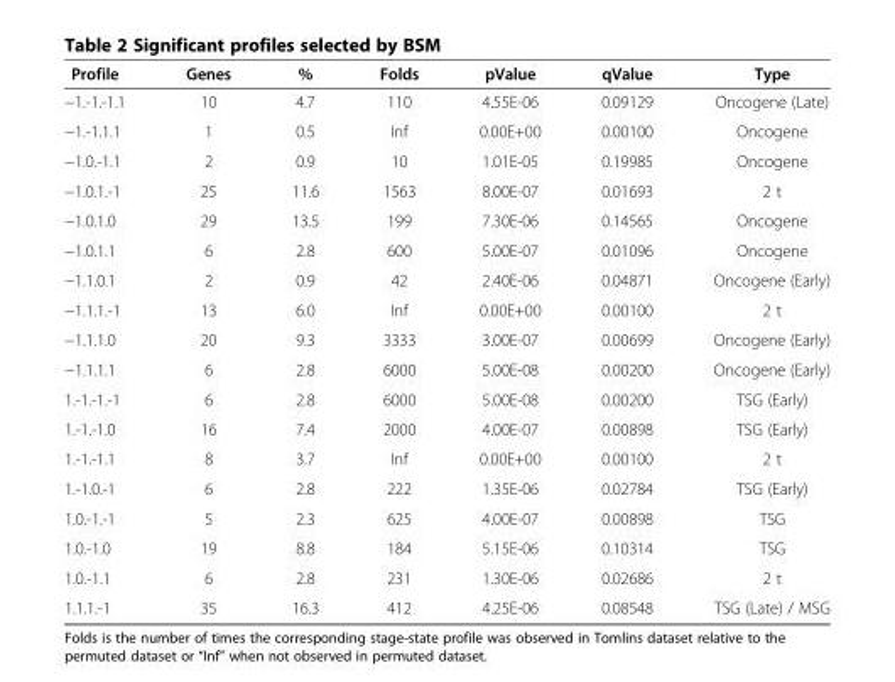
<table><thead><tr><td>Profile</td><td>Genes</td><td>%</td><td>Folds</td><td>pValue</td><td>qValue</td><td>Type</td></tr></thead><tbody><tr><td>−1.-1.-1.1</td><td>10</td><td>4.7</td><td>110</td><td>4.55E-06</td><td>0.09129</td><td>Oncogene (Late)</td></tr><tr><td>−1.-1.1.1</td><td>1</td><td>0.5</td><td>Inf</td><td>0.00E+00</td><td>0.00100</td><td>Oncogene</td></tr><tr><td>−1.0.-1.1</td><td>2</td><td>0.9</td><td>10</td><td>1.01E-05</td><td>0.19985</td><td>Oncogene</td></tr><tr><td>−1.0.1.-1</td><td>25</td><td>11.6</td><td>1563</td><td>8.00E-07</td><td>0.01693</td><td>2 t</td></tr><tr><td>−1.0.1.0</td><td>29</td><td>13.5</td><td>199</td><td>7.30E-06</td><td>0.14565</td><td>Oncogene</td></tr><tr><td>−1.0.1.1</td><td>6</td><td>2.8</td><td>600</td><td>5.00E-07</td><td>0.01096</td><td>Oncogene</td></tr><tr><td>−1.1.0.1</td><td>2</td><td>0.9</td><td>42</td><td>2.40E-06</td><td>0.04871</td><td>Oncogene (Early)</td></tr><tr><td>−1.1.1.-1</td><td>13</td><td>6.0</td><td>Inf</td><td>0.00E+00</td><td>0.00100</td><td>2 t</td></tr><tr><td>−1.1.1.0</td><td>20</td><td>9.3</td><td>3333</td><td>3.00E-07</td><td>0.00699</td><td>Oncogene (Early)</td></tr><tr><td>−1.1.1.1</td><td>6</td><td>2.8</td><td>6000</td><td>5.00E-08</td><td>0.00200</td><td>Oncogene (Early)</td></tr><tr><td>1.-1.-1.-1</td><td>6</td><td>2.8</td><td>6000</td><td>5.00E-08</td><td>0.00200</td><td>TSG (Early)</td></tr><tr><td>1.-1.-1.0</td><td>16</td><td>7.4</td><td>2000</td><td>4.00E-07</td><td>0.00898</td><td>TSG (Early)</td></tr><tr><td>1.-1.-1.1</td><td>8</td><td>3.7</td><td>Inf</td><td>0.00E+00</td><td>0.00100</td><td>2 t</td></tr><tr><td>1.-1.0.-1</td><td>6</td><td>2.8</td><td>222</td><td>1.35E-06</td><td>0.02784</td><td>TSG (Early)</td></tr><tr><td>1.0.-1.-1</td><td>5</td><td>2.3</td><td>625</td><td>4.00E-07</td><td>0.00898</td><td>TSG</td></tr><tr><td>1.0.-1.0</td><td>19</td><td>8.8</td><td>184</td><td>5.15E-06</td><td>0.10314</td><td>TSG</td></tr><tr><td>1.0.-1.1</td><td>6</td><td>2.8</td><td>231</td><td>1.30E-06</td><td>0.02686</td><td>2 t</td></tr><tr><td>1.1.1.-1</td><td>35</td><td>16.3</td><td>412</td><td>4.25E-06</td><td>0.08548</td><td>TSG (Late) / MSG</td></tr></tbody></table>